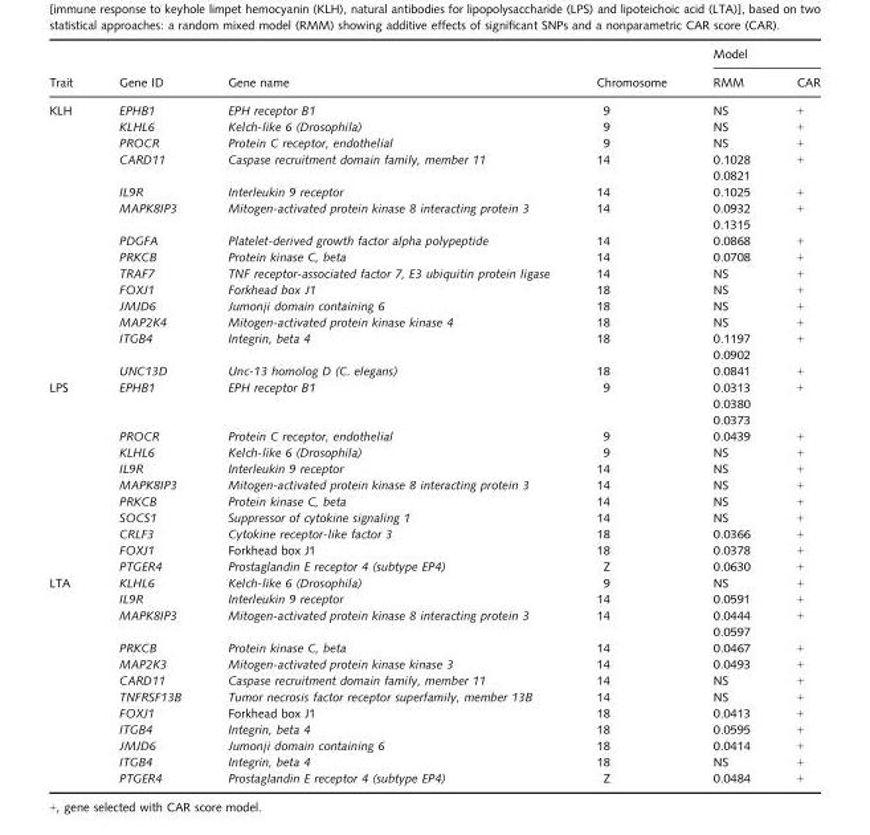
<table><thead><tr><td rowspan="2">Trait</td><td rowspan="2">Gene ID</td><td rowspan="2">Gene name</td><td rowspan="2">Chromosome</td><td colspan="2">Model</td></tr><tr><td>RMM</td><td>CAR</td></tr></thead><tbody><tr><td rowspan="14">KLH</td><td>EPHB1</td><td>EPH receptor B1</td><td>9</td><td>NS</td><td>+</td></tr><tr><td>KLHL6</td><td>Kelch-like 6 (Drosophila)</td><td>9</td><td>NS</td><td>+</td></tr><tr><td>PROCR</td><td>Protein C receptor, endothelial</td><td>9</td><td>NS</td><td>+</td></tr><tr><td>CARD11</td><td>Caspase recruitment domain family, member 11</td><td>14</td><td>0.1028 0.0821</td><td>+</td></tr><tr><td>IL9R</td><td>Interleukin 9 receptor</td><td>14</td><td>0.1025</td><td>+</td></tr><tr><td>MAPK8IP3</td><td>Mitogen-activated protein kinase 8 interacting protein 3</td><td>14</td><td>0.0932 0.1315</td><td>+</td></tr><tr><td>PDGFA</td><td>Platelet-derived growth factor alpha polypeptide</td><td>14</td><td>0.0868</td><td>+</td></tr><tr><td>PRKCB</td><td>Protein kinase C, beta</td><td>14</td><td>0.0708</td><td>+</td></tr><tr><td>TRAF7</td><td>TNF receptor-associated factor 7, E3 ubiquitin protein ligase</td><td>14</td><td>NS</td><td>+</td></tr><tr><td>FOXJ1</td><td>Forkhead box J1</td><td>18</td><td>NS</td><td>+</td></tr><tr><td>JMJD6</td><td>Jumonji domain containing 6</td><td>18</td><td>NS</td><td>+</td></tr><tr><td>MAP2K4</td><td>Mitogen-activated protein kinase kinase 4</td><td>18</td><td>NS</td><td>+</td></tr><tr><td>ITGB4</td><td>Integrin, beta 4</td><td>18</td><td>0.1197 0.0902</td><td>+</td></tr><tr><td>UNC13D</td><td>Unc-13 homolog D (C. elegans)</td><td>18</td><td>0.0841</td><td>+</td></tr><tr><td rowspan="10">LPS</td><td>EPHB1</td><td>EPH receptor B1</td><td>9</td><td>0.0313 0.0380 0.0373</td><td>+</td></tr><tr><td>PROCR</td><td>Protein C receptor, endothelial</td><td>9</td><td>0.0439</td><td>+</td></tr><tr><td>KLHL6</td><td>Kelch-like 6 (Drosophila)</td><td>9</td><td>NS</td><td>+</td></tr><tr><td>IL9R</td><td>Interleukin 9 receptor</td><td>14</td><td>NS</td><td>+</td></tr><tr><td>MAPK8IP3</td><td>Mitogen-activated protein kinase 8 interacting protein 3</td><td>14</td><td>NS</td><td>+</td></tr><tr><td>PRKCB</td><td>Protein kinase C, beta</td><td>14</td><td>NS</td><td>+</td></tr><tr><td>SOCS1</td><td>Suppressor of cytokine signaling 1</td><td>14</td><td>NS</td><td>+</td></tr><tr><td>CRLF3</td><td>Cytokine receptor-like factor 3</td><td>18</td><td>0.0366</td><td>+</td></tr><tr><td>FOXJ1</td><td>Forkhead box J1</td><td>18</td><td>0.0378</td><td>+</td></tr><tr><td>PTGER4</td><td>Prostaglandin E receptor 4 (subtype EP4)</td><td>Z</td><td>0.0630</td><td>+</td></tr><tr><td rowspan="12">LTA</td><td>KLHL6</td><td>Kelch-like 6 (Drosophila)</td><td>9</td><td>NS</td><td>+</td></tr><tr><td>IL9R</td><td>Interleukin 9 receptor</td><td>14</td><td>0.0591</td><td>+</td></tr><tr><td>MAPK8IP3</td><td>Mitogen-activated protein kinase 8 interacting protein 3</td><td>14</td><td>0.0444 0.0597</td><td>+</td></tr><tr><td>PRKCB</td><td>Protein kinase C, beta</td><td>14</td><td>0.0467</td><td>+</td></tr><tr><td>MAP2K3</td><td>Mitogen-activated protein kinase kinase 3</td><td>14</td><td>0.0493</td><td>+</td></tr><tr><td>CARD11</td><td>Caspase recruitment domain family, member 11</td><td>14</td><td>NS</td><td>+</td></tr><tr><td>TNFRSF13B</td><td>Tumor necrosis factor receptor superfamily, member 13B</td><td>14</td><td>NS</td><td>+</td></tr><tr><td>FOXJ1</td><td>Forkhead box J1</td><td>18</td><td>0.0413</td><td>+</td></tr><tr><td>ITGB4</td><td>Integrin, beta 4</td><td>18</td><td>0.0595</td><td>+</td></tr><tr><td>JMJD6</td><td>Jumonji domain containing 6</td><td>18</td><td>0.0414</td><td>+</td></tr><tr><td>ITGB4</td><td>Integrin, beta 4</td><td>18</td><td>NS</td><td>+</td></tr><tr><td>PTGER4</td><td>Prostaglandin E receptor 4 (subtype EP4)</td><td>Z</td><td>0.0484</td><td>+</td></tr></tbody></table>